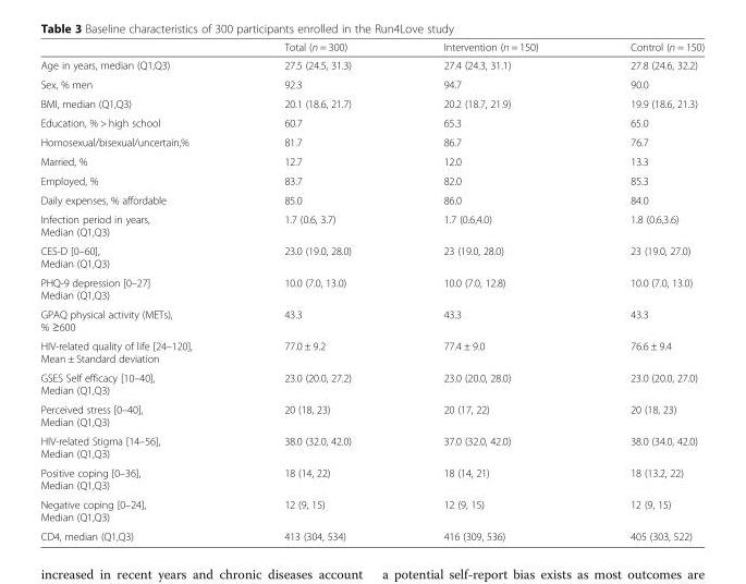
<table><thead><tr><td></td><td>Total (n = 300)</td><td>Intervention (n = 150)</td><td>Control (n = 150)</td></tr></thead><tbody><tr><td>Age in years, median (Q1,Q3)</td><td>27.5 (24.5, 31.3)</td><td>27.4 (24.3, 31.1)</td><td>27.8 (24.6, 32.2)</td></tr><tr><td>Sex, % men</td><td>92.3</td><td>94.7</td><td>90.0</td></tr><tr><td>BMI, median (Q1,Q3)</td><td>20.1 (18.6, 21.7)</td><td>20.2 (18.7, 21.9)</td><td>19.9 (18.6, 21.3)</td></tr><tr><td>Education, % &gt; high school</td><td>60.7</td><td>65.3</td><td>65.0</td></tr><tr><td>Homosexual/bisexual/uncertain,%</td><td>81.7</td><td>86.7</td><td>76.7</td></tr><tr><td>Married, %</td><td>12.7</td><td>12.0</td><td>13.3</td></tr><tr><td>Employed, %</td><td>83.7</td><td>82.0</td><td>85.3</td></tr><tr><td>Daily expenses, % affordable</td><td>85.0</td><td>86.0</td><td>84.0</td></tr><tr><td>Infection period in years, Median (Q1,Q3)</td><td>1.7 (0.6, 3.7)</td><td>1.7 (0.6,4.0)</td><td>1.8 (0.6,3.6)</td></tr><tr><td>CES-D [0–60], Median (Q1,Q3)</td><td>23.0 (19.0, 28.0)</td><td>23 (19.0, 28.0)</td><td>23 (19.0, 27.0)</td></tr><tr><td>PHQ-9 depression [0–27] Median (Q1,Q3)</td><td>10.0 (7.0, 13.0)</td><td>10.0 (7.0, 12.8)</td><td>10.0 (7.0, 13.0)</td></tr><tr><td>GPAQ physical activity (METs), % ≥600</td><td>43.3</td><td>43.3</td><td>43.3</td></tr><tr><td>HIV-related quality of life [24–120], Mean ± Standard deviation</td><td>77.0 ± 9.2</td><td>77.4 ± 9.0</td><td>76.6 ± 9.4</td></tr><tr><td>GSES Self efficacy [10–40], Median (Q1,Q3)</td><td>23.0 (20.0, 27.2)</td><td>23.0 (20.0, 28.0)</td><td>23.0 (20.0, 27.0)</td></tr><tr><td>Perceived stress [0–40], Median (Q1,Q3)</td><td>20 (18, 23)</td><td>20 (17, 22)</td><td>20 (18, 23)</td></tr><tr><td>HIV-related Stigma [14–56], Median (Q1,Q3)</td><td>38.0 (32.0, 42.0)</td><td>37.0 (32.0, 42.0)</td><td>38.0 (34.0, 42.0)</td></tr><tr><td>Positive coping [0–36], Median (Q1,Q3)</td><td>18 (14, 22)</td><td>18 (14, 21)</td><td>18 (13.2, 22)</td></tr><tr><td>Negative coping [0–24], Median (Q1,Q3)</td><td>12 (9, 15)</td><td>12 (9, 15)</td><td>12 (9, 15)</td></tr><tr><td>CD4, median (Q1,Q3)</td><td>413 (304, 534)</td><td>416 (309, 536)</td><td>405 (303, 522)</td></tr></tbody></table>